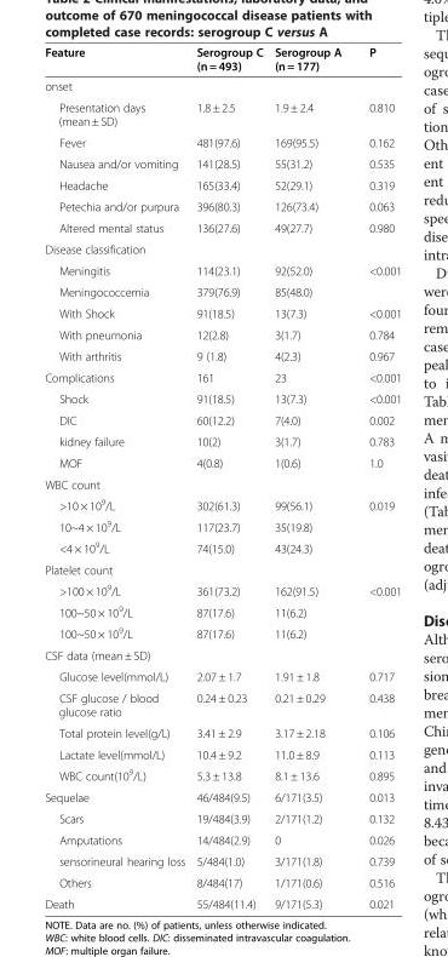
<table><thead><tr><td>Feature</td><td>Serogroup C (n = 493)</td><td>Serogroup A (n = 177)</td><td>P</td></tr></thead><tbody><tr><td colspan="4">onset</td></tr><tr><td>Presentation days (mean ± SD)</td><td>1.8 ± 2.5</td><td>1.9 ± 2.4</td><td>0.810</td></tr><tr><td>Fever</td><td>481(97.6)</td><td>169(95.5)</td><td>0.162</td></tr><tr><td>Nausea and/or vomiting</td><td>141(28.5)</td><td>55(31.2)</td><td>0.535</td></tr><tr><td>Headache</td><td>165(33.4)</td><td>52(29.1)</td><td>0.319</td></tr><tr><td>Petechia and/or purpura</td><td>396(80.3)</td><td>126(73.4)</td><td>0.063</td></tr><tr><td>Altered mental status</td><td>136(27.6)</td><td>49(27.7)</td><td>0.980</td></tr><tr><td colspan="4">Disease classification</td></tr><tr><td>Meningitis</td><td>114(23.1)</td><td>92(52.0)</td><td>&lt;0.001</td></tr><tr><td>Meningococcemia</td><td>379(76.9)</td><td>85(48.0)</td><td></td></tr><tr><td>With Shock</td><td>91(18.5)</td><td>13(7.3)</td><td>&lt;0.001</td></tr><tr><td>With pneumonia</td><td>12(2.8)</td><td>3(1.7)</td><td>0.784</td></tr><tr><td>With arthritis</td><td>9 (1.8)</td><td>4(2.3)</td><td>0.967</td></tr><tr><td>Complications</td><td>161</td><td>23</td><td>&lt;0.001</td></tr><tr><td>Shock</td><td>91(18.5)</td><td>13(7.3)</td><td>&lt;0.001</td></tr><tr><td>DIC</td><td>60(12.2)</td><td>7(4.0)</td><td>0.002</td></tr><tr><td>kidney failure</td><td>10(2)</td><td>3(1.7)</td><td>0.783</td></tr><tr><td>MOF</td><td>4(0.8)</td><td>1(0.6)</td><td>1.0</td></tr><tr><td colspan="4">WBC count</td></tr><tr><td>&gt;10 × 10<sup>9</sup>/L</td><td>302(61.3)</td><td>99(56.1)</td><td>0.019</td></tr><tr><td>10~4 × 10<sup>9</sup>/L</td><td>117(23.7)</td><td>35(19.8)</td><td></td></tr><tr><td>&lt;4 × 10<sup>9</sup>/L</td><td>74(15.0)</td><td>43(24.3)</td><td></td></tr><tr><td colspan="4">Platelet count</td></tr><tr><td>&gt;100 × 10<sup>9</sup>/L</td><td>361(73.2)</td><td>162(91.5)</td><td>&lt;0.001</td></tr><tr><td>100~50 × 10<sup>9</sup>/L</td><td>87(17.6)</td><td>11(6.2)</td><td></td></tr><tr><td>100~50 × 10<sup>9</sup>/L</td><td>87(17.6)</td><td>11(6.2)</td><td></td></tr><tr><td colspan="4">CSF data (mean ± SD)</td></tr><tr><td>Glucose level(mmol/L)</td><td>2.07 ± 1.7</td><td>1.91 ± 1.8</td><td>0.717</td></tr><tr><td>CSF glucose / blood glucose ratio</td><td>0.24 ± 0.23</td><td>0.21 ± 0.29</td><td>0.438</td></tr><tr><td>Total protein level(g/L)</td><td>3.41 ± 2.9</td><td>3.17 ± 2.18</td><td>0.106</td></tr><tr><td>Lactate level(mmol/L)</td><td>10.4 ± 9.2</td><td>11.0 ± 8.9</td><td>0.113</td></tr><tr><td>WBC count(10<sup>9</sup>/L)</td><td>5.3 ± 13.8</td><td>8.1 ± 13.6</td><td>0.895</td></tr><tr><td>Sequelae</td><td>46/484(9.5)</td><td>6/171(3.5)</td><td>0.013</td></tr><tr><td>Scars</td><td>19/484(3.9)</td><td>2/171(1.2)</td><td>0.132</td></tr><tr><td>Amputations</td><td>14/484(2.9)</td><td>0</td><td>0.026</td></tr><tr><td>sensorineural hearing loss</td><td>5/484(1.0)</td><td>3/171(1.8)</td><td>0.739</td></tr><tr><td>Others</td><td>8/484(17)</td><td>1/171(0.6)</td><td>0.516</td></tr><tr><td>Death</td><td>55/484(11.4)</td><td>9/171(5.3)</td><td>0.021</td></tr></tbody></table>